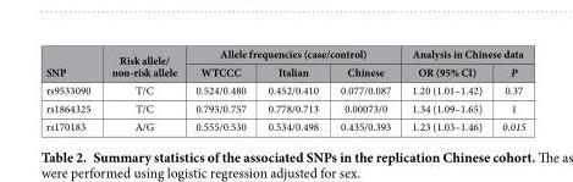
<table><thead><tr><td rowspan="2">SNP</td><td rowspan="2">Risk allele/ non-risk allele</td><td colspan="3">Allele frequencies (case/control)</td><td colspan="2">Analysis in Chinese data</td></tr><tr><td>WTCCC</td><td>Italian</td><td>Chinese</td><td>OR (95% CI)</td><td>P</td></tr></thead><tbody><tr><td>rs9533090</td><td>T/C</td><td>0.524/0.480</td><td>0.452/0.410</td><td>0.077/0.087</td><td>1.20 (1.01–1.42)</td><td>0.37</td></tr><tr><td>rs1864325</td><td>T/C</td><td>0.793/0.757</td><td>0.778/0.713</td><td>0.00073/0</td><td>1.34 (1.09–1.65)</td><td>1</td></tr><tr><td>rs170183</td><td>A/G</td><td>0.555/0.530</td><td>0.534/0.498</td><td>0.435/0.393</td><td>1.23 (1.03–1.46)</td><td>0.015</td></tr></tbody></table>